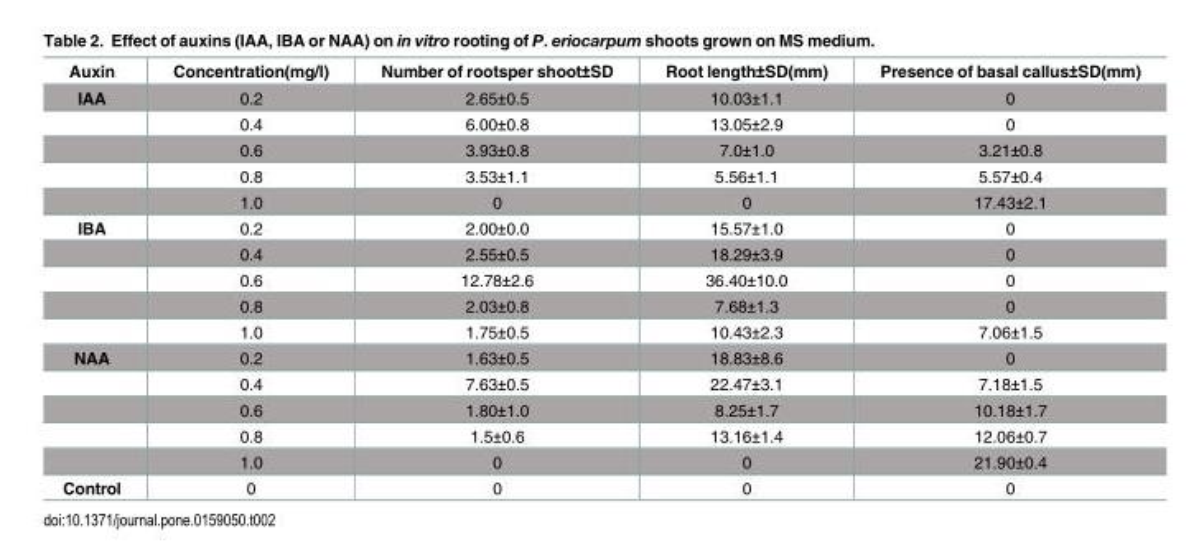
<table><thead><tr><td>Auxin</td><td>Concentration(mg/l)</td><td>Number of rootsper shoot±SD</td><td>Root length±SD(mm)</td><td>Presence of basal callus±SD(mm)</td></tr></thead><tbody><tr><td rowspan="5">IAA</td><td>0.2</td><td>2.65±0.5</td><td>10.03±1.1</td><td>0</td></tr><tr><td>0.4</td><td>6.00±0.8</td><td>13.05±2.9</td><td>0</td></tr><tr><td>0.6</td><td>3.93±0.8</td><td>7.0±1.0</td><td>3.21±0.8</td></tr><tr><td>0.8</td><td>3.53±1.1</td><td>5.56±1.1</td><td>5.57±0.4</td></tr><tr><td>1.0</td><td>0</td><td>0</td><td>17.43±2.1</td></tr><tr><td rowspan="5">IBA</td><td>0.2</td><td>2.00±0.0</td><td>15.57±1.0</td><td>0</td></tr><tr><td>0.4</td><td>2.55±0.5</td><td>18.29±3.9</td><td>0</td></tr><tr><td>0.6</td><td>12.78±2.6</td><td>36.40±10.0</td><td>0</td></tr><tr><td>0.8</td><td>2.03±0.8</td><td>7.68±1.3</td><td>0</td></tr><tr><td>1.0</td><td>1.75±0.5</td><td>10.43±2.3</td><td>7.06±1.5</td></tr><tr><td rowspan="5">NAA</td><td>0.2</td><td>1.63±0.5</td><td>18.83±8.6</td><td>0</td></tr><tr><td>0.4</td><td>7.63±0.5</td><td>22.47±3.1</td><td>7.18±1.5</td></tr><tr><td>0.6</td><td>1.80±1.0</td><td>8.25±1.7</td><td>10.18±1.7</td></tr><tr><td>0.8</td><td>1.5±0.6</td><td>13.16±1.4</td><td>12.06±0.7</td></tr><tr><td>1.0</td><td>0</td><td>0</td><td>21.90±0.4</td></tr><tr><td>Control</td><td>0</td><td>0</td><td>0</td><td>0</td></tr></tbody></table>